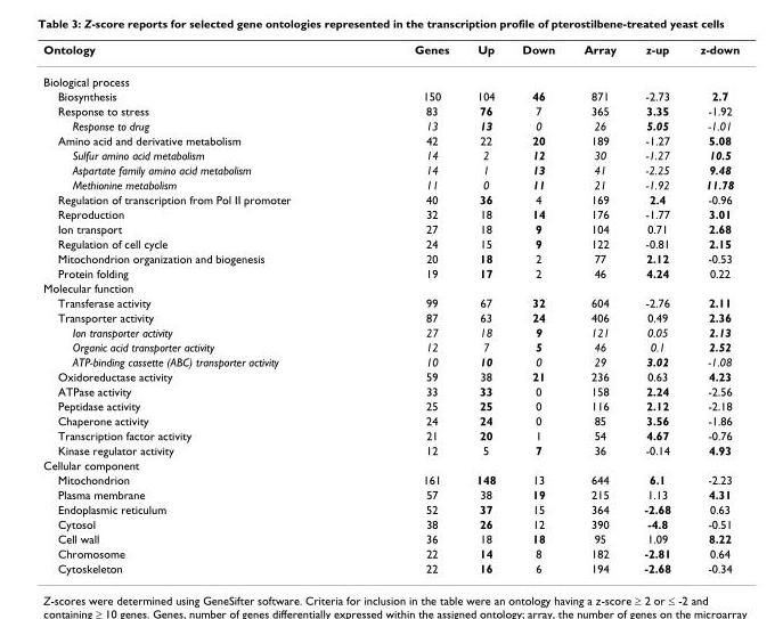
<table><thead><tr><td>Ontology</td><td>Genes</td><td>Up</td><td>Down</td><td>Array</td><td>z-up</td><td>z-down</td></tr></thead><tbody><tr><td colspan="7">Biological process</td></tr><tr><td>Biosynthesis</td><td>150</td><td>104</td><td>46</td><td>871</td><td>-2.73</td><td>2.7</td></tr><tr><td>Response to stress</td><td>83</td><td>76</td><td>7</td><td>365</td><td>3.35</td><td>-1.92</td></tr><tr><td>Response to drug</td><td>13</td><td>13</td><td>0</td><td>26</td><td>5.05</td><td>-1.01</td></tr><tr><td>Amino acid and derivative metabolism</td><td>42</td><td>22</td><td>20</td><td>189</td><td>-1.27</td><td>5.08</td></tr><tr><td>Sulfur amino acid metabolism</td><td>14</td><td>2</td><td>12</td><td>30</td><td>-1.27</td><td>10.5</td></tr><tr><td>Aspartate family amino acid metabolism</td><td>14</td><td>1</td><td>13</td><td>41</td><td>-2.25</td><td>9.48</td></tr><tr><td>Methionine metabolism</td><td>11</td><td>0</td><td>11</td><td>21</td><td>-1.92</td><td>11.78</td></tr><tr><td>Regulation of transcription from Pol II promoter</td><td>40</td><td>36</td><td>4</td><td>169</td><td>2.4</td><td>-0.96</td></tr><tr><td>Reproduction</td><td>32</td><td>18</td><td>14</td><td>176</td><td>-1.77</td><td>3.01</td></tr><tr><td>Ion transport</td><td>27</td><td>18</td><td>9</td><td>104</td><td>0.71</td><td>2.68</td></tr><tr><td>Regulation of cell cycle</td><td>24</td><td>15</td><td>9</td><td>122</td><td>-0.81</td><td>2.15</td></tr><tr><td>Mitochondrion organization and biogenesis</td><td>20</td><td>18</td><td>2</td><td>77</td><td>2.12</td><td>-0.53</td></tr><tr><td>Protein folding</td><td>19</td><td>17</td><td>2</td><td>46</td><td>4.24</td><td>0.22</td></tr><tr><td colspan="7">Molecular function</td></tr><tr><td>Transferase activity</td><td>99</td><td>67</td><td>32</td><td>604</td><td>-2.76</td><td>2.11</td></tr><tr><td>Transporter activity</td><td>87</td><td>63</td><td>24</td><td>406</td><td>0.49</td><td>2.36</td></tr><tr><td>Ion transporter activity</td><td>27</td><td>18</td><td>9</td><td>121</td><td>0.05</td><td>2.13</td></tr><tr><td>Organic acid transporter activity</td><td>12</td><td>7</td><td>5</td><td>46</td><td>0.1</td><td>2.52</td></tr><tr><td>ATP-binding cassette (ABC) transporter activity</td><td>10</td><td>10</td><td>0</td><td>29</td><td>3.02</td><td>-1.08</td></tr><tr><td>Oxidoreductase activity</td><td>59</td><td>38</td><td>21</td><td>236</td><td>0.63</td><td>4.23</td></tr><tr><td>ATPase activity</td><td>33</td><td>33</td><td>0</td><td>158</td><td>2.24</td><td>-2.56</td></tr><tr><td>Peptidase activity</td><td>25</td><td>25</td><td>0</td><td>116</td><td>2.12</td><td>-2.18</td></tr><tr><td>Chaperone activity</td><td>24</td><td>24</td><td>0</td><td>85</td><td>3.56</td><td>-1.86</td></tr><tr><td>Transcription factor activity</td><td>21</td><td>20</td><td>1</td><td>54</td><td>4.67</td><td>-0.76</td></tr><tr><td>Kinase regulator activity</td><td>12</td><td>5</td><td>7</td><td>36</td><td>-0.14</td><td>4.93</td></tr><tr><td colspan="7">Cellular component</td></tr><tr><td>Mitochondrion</td><td>161</td><td>148</td><td>13</td><td>644</td><td>6.1</td><td>-2.23</td></tr><tr><td>Plasma membrane</td><td>57</td><td>38</td><td>19</td><td>215</td><td>1.13</td><td>4.31</td></tr><tr><td>Endoplasmic reticulum</td><td>52</td><td>37</td><td>15</td><td>364</td><td>-2.68</td><td>0.63</td></tr><tr><td>Cytosol</td><td>38</td><td>26</td><td>12</td><td>390</td><td>-4.8</td><td>-0.51</td></tr><tr><td>Cell wall</td><td>36</td><td>18</td><td>18</td><td>95</td><td>1.09</td><td>8.22</td></tr><tr><td>Chromosome</td><td>22</td><td>14</td><td>8</td><td>182</td><td>-2.81</td><td>0.64</td></tr><tr><td>Cytoskeleton</td><td>22</td><td>16</td><td>6</td><td>194</td><td>-2.68</td><td>-0.34</td></tr></tbody></table>